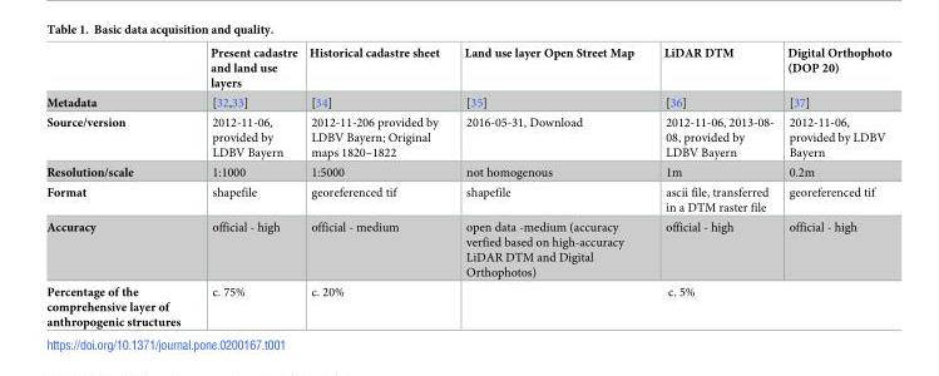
<table><thead><tr><td></td><td>Present cadastre and land use layers</td><td>Historical cadastre sheet</td><td>Land use layer Open Street Map</td><td>LiDAR DTM</td><td>Digital Orthophoto (DOP 20)</td></tr></thead><tbody><tr><td>Metadata</td><td>[32,33]</td><td>[34]</td><td>[35]</td><td>[36]</td><td>[37]</td></tr><tr><td>Source/version</td><td>2012-11-06, provided by LDBV Bayern</td><td>2012-11-206 provided by LDBV Bayern; Original maps 1820–1822</td><td>2016-05-31, Download</td><td>2012-11-06, 2013-08- 08, provided by LDBV Bayern</td><td>2012-11-06, provided by LDBV Bayern</td></tr><tr><td>Resolution/scale</td><td>1:1000</td><td>1:5000</td><td>not homogenous</td><td>1m</td><td>0.2m</td></tr><tr><td>Format</td><td>shapefile</td><td>georeferenced tif</td><td>shapefile</td><td>ascii file, transferred in a DTM raster file</td><td>georeferenced tif</td></tr><tr><td>Accuracy</td><td>official - high</td><td>official - medium</td><td>open data -medium (accuracy verfied based on high-accuracy LiDAR DTM and Digital Orthophotos)</td><td>official - high</td><td>official - high</td></tr><tr><td>Percentage of the comprehensive layer of anthropogenic structures</td><td>c. 75%</td><td>c. 20%</td><td colspan="3">c. 5%</td></tr></tbody></table>